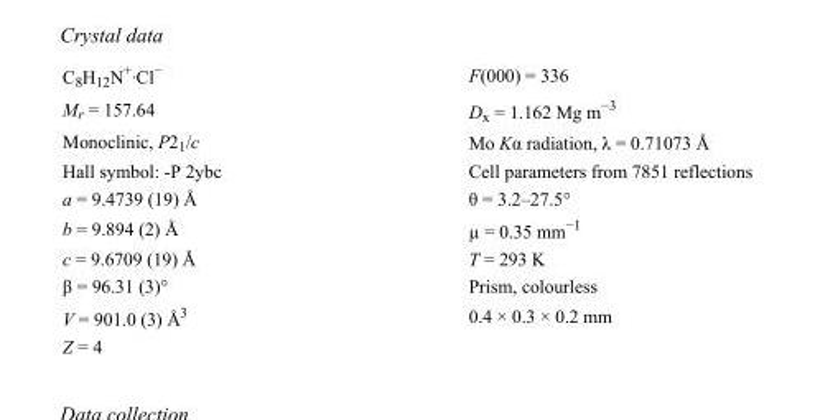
<table><tbody><tr><td>C<sub>8</sub>H<sub>12</sub>N<sup>+</sup>·Cl<sup>−</sup></td><td>F(000) = 336</td></tr><tr><td>M<sub>r</sub> = 157.64</td><td>D<sub>x</sub> = 1.162 Mg m<sup>−3</sup></td></tr><tr><td>Monoclinic, P2<sub>1</sub>/c</td><td>Mo Kα radiation, λ = 0.71073 Å</td></tr><tr><td>Hall symbol: -P 2ybc</td><td>Cell parameters from 7851 reflections</td></tr><tr><td>a = 9.4739 (19) Å</td><td>θ = 3.2–27.5°</td></tr><tr><td>b = 9.894 (2) Å</td><td>µ = 0.35 mm<sup>−1</sup></td></tr><tr><td>c = 9.6709 (19) Å</td><td>T = 293 K</td></tr><tr><td>β = 96.31 (3)°</td><td>Prism, colourless</td></tr><tr><td>V = 901.0 (3) Å<sup>3</sup></td><td>0.4 × 0.3 × 0.2 mm</td></tr><tr><td>Z = 4</td><td></td></tr></tbody></table>